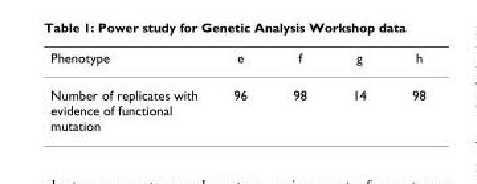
<table><thead><tr><td>Phenotype</td><td>e</td><td>f</td><td>g</td><td>h</td></tr></thead><tbody><tr><td>Number of replicates with evidence of functional mutation</td><td>96</td><td>98</td><td>14</td><td>98</td></tr></tbody></table>